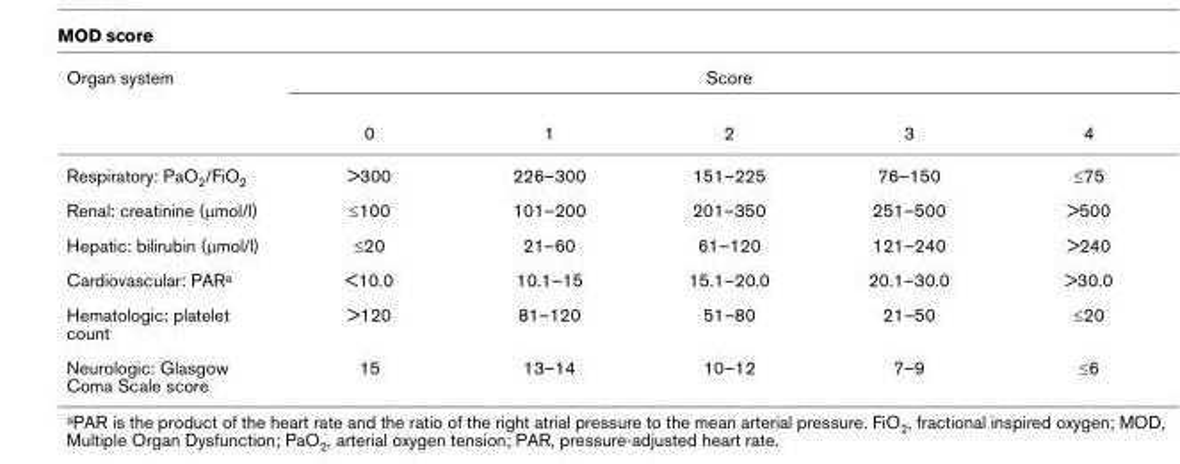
<table><thead><tr><td rowspan="2">Organ system</td><td colspan="5">Score</td></tr><tr><td>0</td><td>1</td><td>2</td><td>3</td><td>4</td></tr></thead><tbody><tr><td>Respiratory: PaO2/FiO2</td><td>&gt;300</td><td>226–300</td><td>151–225</td><td>76–150</td><td>≤75</td></tr><tr><td>Renal: creatinine (µmol/l)</td><td>≤100</td><td>101–200</td><td>201–350</td><td>251–500</td><td>&gt;500</td></tr><tr><td>Hepatic: bilirubin (µmol/l)</td><td>≤20</td><td>21–60</td><td>61–120</td><td>121–240</td><td>&gt;240</td></tr><tr><td>Cardiovascular: PARa</td><td>&lt;10.0</td><td>10.1–15</td><td>15.1–20.0</td><td>20.1–30.0</td><td>&gt;30.0</td></tr><tr><td>Hematologic: platelet count</td><td>&gt;120</td><td>81–120</td><td>51–80</td><td>21–50</td><td>≤20</td></tr><tr><td>Neurologic: Glasgow Coma Scale score</td><td>15</td><td>13–14</td><td>10–12</td><td>7–9</td><td>≤6</td></tr></tbody></table>